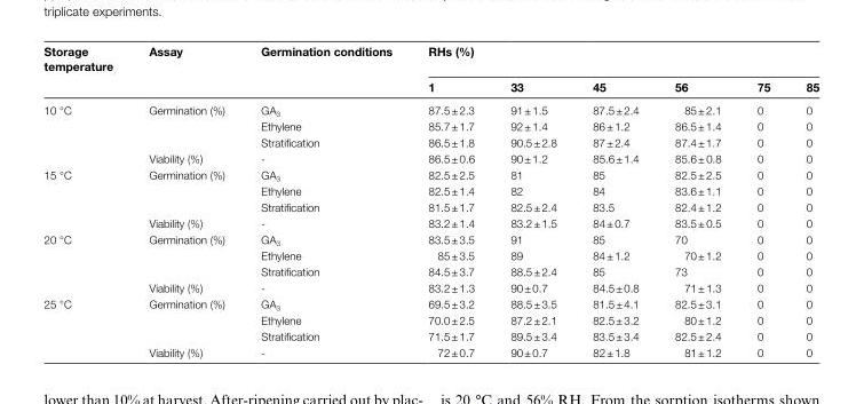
<table><thead><tr><td rowspan="2">Storage temperature</td><td rowspan="2">Assay</td><td rowspan="2">Germination conditions</td><td colspan="6">RHs (%)</td></tr><tr><td>1</td><td>33</td><td>45</td><td>56</td><td>75</td><td>85</td></tr></thead><tbody><tr><td rowspan="4">10 °C</td><td rowspan="3">Germination (%)</td><td>GA<sub>3</sub></td><td>87.5 ± 2.3</td><td>91 ± 1.5</td><td>87.5 ± 2.4</td><td>85 ± 2.1</td><td>0</td><td>0</td></tr><tr><td>Ethylene</td><td>85.7 ± 1.7</td><td>92 ± 1.4</td><td>86 ± 1.2</td><td>86.5 ± 1.4</td><td>0</td><td>0</td></tr><tr><td>Stratification</td><td>86.5 ± 1.8</td><td>90.5 ± 2.8</td><td>87 ± 2.4</td><td>87.4 ± 1.7</td><td>0</td><td>0</td></tr><tr><td>Viability (%)</td><td>-</td><td>86.5 ± 0.6</td><td>90 ± 1.2</td><td>85.6 ± 1.4</td><td>85.6 ± 0.8</td><td>0</td><td>0</td></tr><tr><td rowspan="4">15 °C</td><td rowspan="3">Germination (%)</td><td>GA<sub>3</sub></td><td>82.5 ± 2.5</td><td>81</td><td>85</td><td>82.5 ± 2.5</td><td>0</td><td>0</td></tr><tr><td>Ethylene</td><td>82.5 ± 1.4</td><td>82</td><td>84</td><td>83.6 ± 1.1</td><td>0</td><td>0</td></tr><tr><td>Stratification</td><td>81.5 ± 1.7</td><td>82.5 ± 2.4</td><td>83.5</td><td>82.4 ± 1.2</td><td>0</td><td>0</td></tr><tr><td>Viability (%)</td><td>-</td><td>83.2 ± 1.4</td><td>83.2 ± 1.5</td><td>84 ± 0.7</td><td>83.5 ± 0.5</td><td>0</td><td>0</td></tr><tr><td rowspan="4">20 °C</td><td rowspan="3">Germination (%)</td><td>GA<sub>3</sub></td><td>83.5 ± 3.5</td><td>91</td><td>85</td><td>70</td><td>0</td><td>0</td></tr><tr><td>Ethylene</td><td>85 ± 3.5</td><td>89</td><td>84 ± 1.2</td><td>70 ± 1.2</td><td>0</td><td>0</td></tr><tr><td>Stratification</td><td>84.5 ± 3.7</td><td>88.5 ± 2.4</td><td>85</td><td>73</td><td>0</td><td>0</td></tr><tr><td>Viability (%)</td><td>-</td><td>83.2 ± 1.3</td><td>90 ± 0.7</td><td>84.5 ± 0.8</td><td>71 ± 1.3</td><td>0</td><td>0</td></tr><tr><td rowspan="4">25 °C</td><td rowspan="3">Germination (%)</td><td>GA<sub>3</sub></td><td>69.5 ± 3.2</td><td>88.5 ± 3.5</td><td>81.5 ± 4.1</td><td>82.5 ± 3.1</td><td>0</td><td>0</td></tr><tr><td>Ethylene</td><td>70.0 ± 2.5</td><td>87.2 ± 2.1</td><td>82.5 ± 3.2</td><td>80 ± 1.2</td><td>0</td><td>0</td></tr><tr><td>Stratification</td><td>71.5 ± 1.7</td><td>89.5 ± 3.4</td><td>83.5 ± 3.4</td><td>82.5 ± 2.4</td><td>0</td><td>0</td></tr><tr><td>Viability (%)</td><td>-</td><td>72 ± 0.7</td><td>90 ± 0.7</td><td>82 ± 1.8</td><td>81 ± 1.2</td><td>0</td><td>0</td></tr></tbody></table>